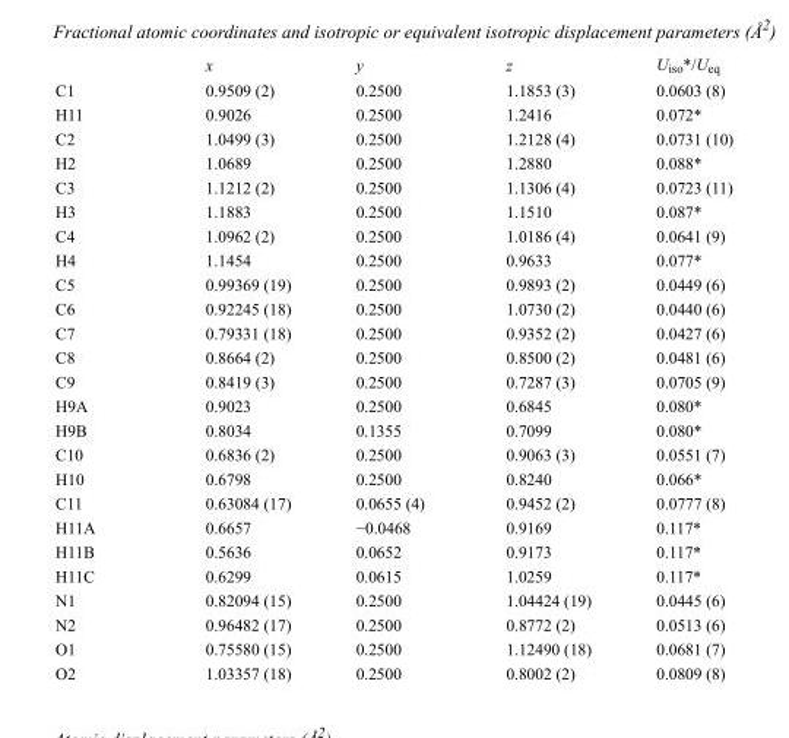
<table><thead><tr><td></td><td>x</td><td>y</td><td>z</td><td>U<sub>iso</sub>*/U<sub>eq</sub></td></tr></thead><tbody><tr><td>C1</td><td>0.9509 (2)</td><td>0.2500</td><td>1.1853 (3)</td><td>0.0603 (8)</td></tr><tr><td>H11</td><td>0.9026</td><td>0.2500</td><td>1.2416</td><td>0.072*</td></tr><tr><td>C2</td><td>1.0499 (3)</td><td>0.2500</td><td>1.2128 (4)</td><td>0.0731 (10)</td></tr><tr><td>H2</td><td>1.0689</td><td>0.2500</td><td>1.2880</td><td>0.088*</td></tr><tr><td>C3</td><td>1.1212 (2)</td><td>0.2500</td><td>1.1306 (4)</td><td>0.0723 (11)</td></tr><tr><td>H3</td><td>1.1883</td><td>0.2500</td><td>1.1510</td><td>0.087*</td></tr><tr><td>C4</td><td>1.0962 (2)</td><td>0.2500</td><td>1.0186 (4)</td><td>0.0641 (9)</td></tr><tr><td>H4</td><td>1.1454</td><td>0.2500</td><td>0.9633</td><td>0.077*</td></tr><tr><td>C5</td><td>0.99369 (19)</td><td>0.2500</td><td>0.9893 (2)</td><td>0.0449 (6)</td></tr><tr><td>C6</td><td>0.92245 (18)</td><td>0.2500</td><td>1.0730 (2)</td><td>0.0440 (6)</td></tr><tr><td>C7</td><td>0.79331 (18)</td><td>0.2500</td><td>0.9352 (2)</td><td>0.0427 (6)</td></tr><tr><td>C8</td><td>0.8664 (2)</td><td>0.2500</td><td>0.8500 (2)</td><td>0.0481 (6)</td></tr><tr><td>C9</td><td>0.8419 (3)</td><td>0.2500</td><td>0.7287 (3)</td><td>0.0705 (9)</td></tr><tr><td>H9A</td><td>0.9023</td><td>0.2500</td><td>0.6845</td><td>0.080*</td></tr><tr><td>H9B</td><td>0.8034</td><td>0.1355</td><td>0.7099</td><td>0.080*</td></tr><tr><td>C10</td><td>0.6836 (2)</td><td>0.2500</td><td>0.9063 (3)</td><td>0.0551 (7)</td></tr><tr><td>H10</td><td>0.6798</td><td>0.2500</td><td>0.8240</td><td>0.066*</td></tr><tr><td>C11</td><td>0.63084 (17)</td><td>0.0655 (4)</td><td>0.9452 (2)</td><td>0.0777 (8)</td></tr><tr><td>H11A</td><td>0.6657</td><td>−0.0468</td><td>0.9169</td><td>0.117*</td></tr><tr><td>H11B</td><td>0.5636</td><td>0.0652</td><td>0.9173</td><td>0.117*</td></tr><tr><td>H11C</td><td>0.6299</td><td>0.0615</td><td>1.0259</td><td>0.117*</td></tr><tr><td>N1</td><td>0.82094 (15)</td><td>0.2500</td><td>1.04424 (19)</td><td>0.0445 (6)</td></tr><tr><td>N2</td><td>0.96482 (17)</td><td>0.2500</td><td>0.8772 (2)</td><td>0.0513 (6)</td></tr><tr><td>O1</td><td>0.75580 (15)</td><td>0.2500</td><td>1.12490 (18)</td><td>0.0681 (7)</td></tr><tr><td>O2</td><td>1.03357 (18)</td><td>0.2500</td><td>0.8002 (2)</td><td>0.0809 (8)</td></tr></tbody></table>